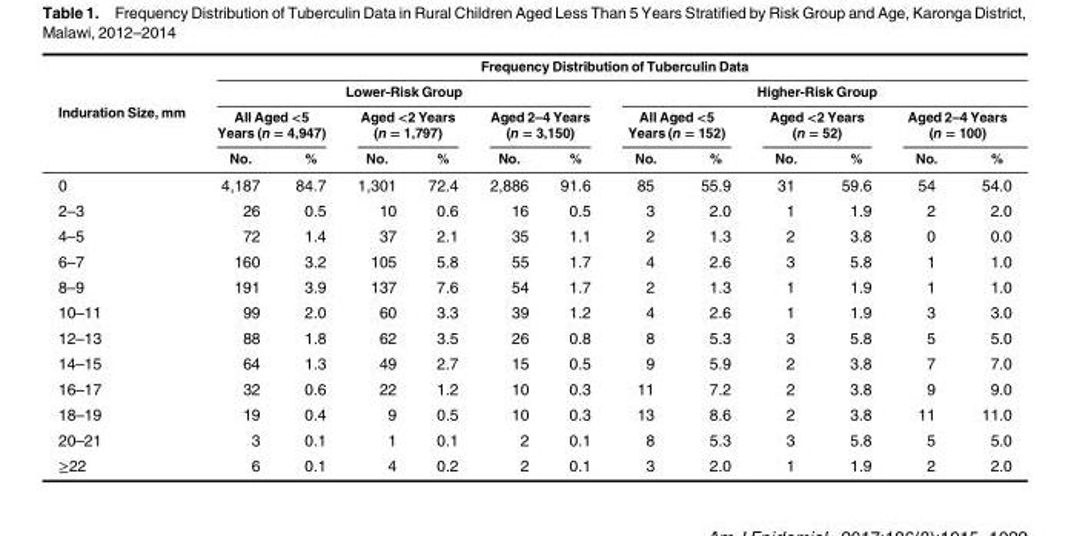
<table><thead><tr><td rowspan="4">Induration Size, mm</td><td colspan="12">Frequency Distribution of Tuberculin Data</td></tr><tr><td colspan="6">Lower-Risk Group</td><td colspan="6">Higher-Risk Group</td></tr><tr><td colspan="2">All Aged &lt;5 Years (n = 4,947)</td><td colspan="2">Aged &lt;2 Years (n = 1,797)</td><td colspan="2">Aged 2–4 Years (n = 3,150)</td><td colspan="2">All Aged &lt;5 Years (n = 152)</td><td colspan="2">Aged &lt;2 Years (n = 52)</td><td colspan="2">Aged 2–4 Years (n = 100)</td></tr><tr><td>No.</td><td>%</td><td>No.</td><td>%</td><td>No.</td><td>%</td><td>No.</td><td>%</td><td>No.</td><td>%</td><td>No.</td><td>%</td></tr></thead><tbody><tr><td>0</td><td>4,187</td><td>84.7</td><td>1,301</td><td>72.4</td><td>2,886</td><td>91.6</td><td>85</td><td>55.9</td><td>31</td><td>59.6</td><td>54</td><td>54.0</td></tr><tr><td>2–3</td><td>26</td><td>0.5</td><td>10</td><td>0.6</td><td>16</td><td>0.5</td><td>3</td><td>2.0</td><td>1</td><td>1.9</td><td>2</td><td>2.0</td></tr><tr><td>4–5</td><td>72</td><td>1.4</td><td>37</td><td>2.1</td><td>35</td><td>1.1</td><td>2</td><td>1.3</td><td>2</td><td>3.8</td><td>0</td><td>0.0</td></tr><tr><td>6–7</td><td>160</td><td>3.2</td><td>105</td><td>5.8</td><td>55</td><td>1.7</td><td>4</td><td>2.6</td><td>3</td><td>5.8</td><td>1</td><td>1.0</td></tr><tr><td>8–9</td><td>191</td><td>3.9</td><td>137</td><td>7.6</td><td>54</td><td>1.7</td><td>2</td><td>1.3</td><td>1</td><td>1.9</td><td>1</td><td>1.0</td></tr><tr><td>10–11</td><td>99</td><td>2.0</td><td>60</td><td>3.3</td><td>39</td><td>1.2</td><td>4</td><td>2.6</td><td>1</td><td>1.9</td><td>3</td><td>3.0</td></tr><tr><td>12–13</td><td>88</td><td>1.8</td><td>62</td><td>3.5</td><td>26</td><td>0.8</td><td>8</td><td>5.3</td><td>3</td><td>5.8</td><td>5</td><td>5.0</td></tr><tr><td>14–15</td><td>64</td><td>1.3</td><td>49</td><td>2.7</td><td>15</td><td>0.5</td><td>9</td><td>5.9</td><td>2</td><td>3.8</td><td>7</td><td>7.0</td></tr><tr><td>16–17</td><td>32</td><td>0.6</td><td>22</td><td>1.2</td><td>10</td><td>0.3</td><td>11</td><td>7.2</td><td>2</td><td>3.8</td><td>9</td><td>9.0</td></tr><tr><td>18–19</td><td>19</td><td>0.4</td><td>9</td><td>0.5</td><td>10</td><td>0.3</td><td>13</td><td>8.6</td><td>2</td><td>3.8</td><td>11</td><td>11.0</td></tr><tr><td>20–21</td><td>3</td><td>0.1</td><td>1</td><td>0.1</td><td>2</td><td>0.1</td><td>8</td><td>5.3</td><td>3</td><td>5.8</td><td>5</td><td>5.0</td></tr><tr><td>≥22</td><td>6</td><td>0.1</td><td>4</td><td>0.2</td><td>2</td><td>0.1</td><td>3</td><td>2.0</td><td>1</td><td>1.9</td><td>2</td><td>2.0</td></tr></tbody></table>